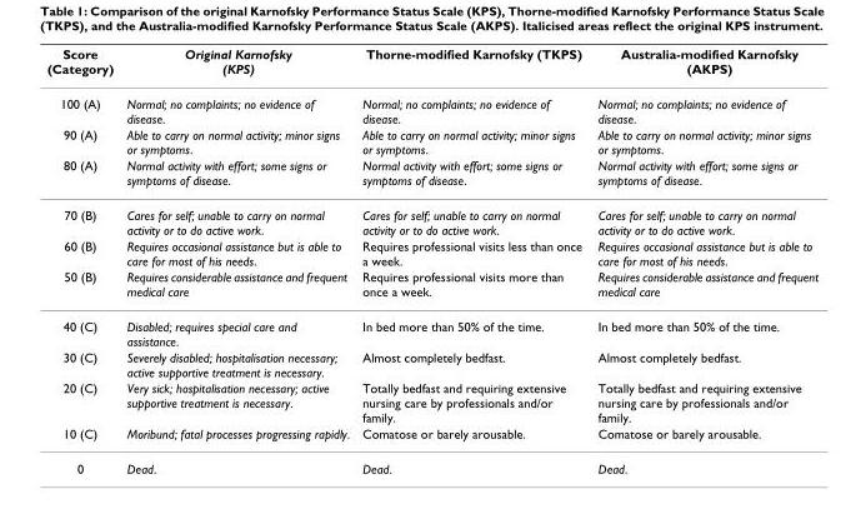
<table><thead><tr><td>Score (Category)</td><td>Original Karnofsky (KPS)</td><td>Thorne-modified Karnofsky (TKPS)</td><td>Australia-modified Karnofsky (AKPS)</td></tr></thead><tbody><tr><td>100 (A)</td><td>Normal; no complaints; no evidence of disease.</td><td>Normal; no complaints; no evidence of disease.</td><td>Normal; no complaints; no evidence of disease.</td></tr><tr><td>90 (A)</td><td>Able to carry on normal activity; minor signs or symptoms.</td><td>Able to carry on normal activity; minor signs or symptoms.</td><td>Able to carry on normal activity; minor signs or symptoms.</td></tr><tr><td>80 (A)</td><td>Normal activity with effort; some signs or symptoms of disease.</td><td>Normal activity with effort; some signs or symptoms of disease.</td><td>Normal activity with effort; some signs or symptoms of disease.</td></tr><tr><td>70 (B)</td><td>Cares for self; unable to carry on normal activity or to do active work.</td><td>Cares for self; unable to carry on normal activity or to do active work.</td><td>Cares for self; unable to carry on normal activity or to do active work.</td></tr><tr><td>60 (B)</td><td>Requires occasional assistance but is able to care for most of his needs.</td><td>Requires professional visits less than once a week.</td><td>Requires occasional assistance but is able to care for most of his needs.</td></tr><tr><td>50 (B)</td><td>Requires considerable assistance and frequent medical care</td><td>Requires professional visits more than once a week.</td><td>Requires considerable assistance and frequent medical care</td></tr><tr><td>40 (C)</td><td>Disabled; requires special care and assistance.</td><td>In bed more than 50% of the time.</td><td>In bed more than 50% of the time.</td></tr><tr><td>30 (C)</td><td>Severely disabled; hospitalisation necessary; active supportive treatment is necessary.</td><td>Almost completely bedfast.</td><td>Almost completely bedfast.</td></tr><tr><td>20 (C)</td><td>Very sick; hospitalisation necessary; active supportive treatment is necessary.</td><td>Totally bedfast and requiring extensive nursing care by professionals and/or family.</td><td>Totally bedfast and requiring extensive nursing care by professionals and/or family.</td></tr><tr><td>10 (C)</td><td>Moribund; fatal processes progressing rapidly.</td><td>Comatose or barely arousable.</td><td>Comatose or barely arousable.</td></tr><tr><td>0</td><td>Dead.</td><td>Dead.</td><td>Dead.</td></tr></tbody></table>